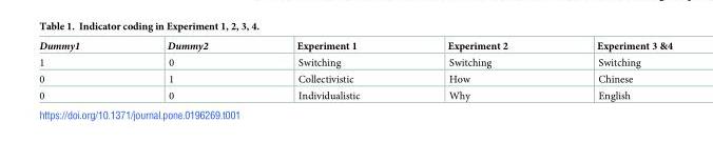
<table><thead><tr><td>Dummy1</td><td>Dummy2</td><td>Experiment 1</td><td>Experiment 2</td><td>Experiment 3 &amp;4</td></tr></thead><tbody><tr><td>1</td><td>0</td><td>Switching</td><td>Switching</td><td>Switching</td></tr><tr><td>0</td><td>1</td><td>Collectivistic</td><td>How</td><td>Chinese</td></tr><tr><td>0</td><td>0</td><td>Individualistic</td><td>Why</td><td>English</td></tr></tbody></table>